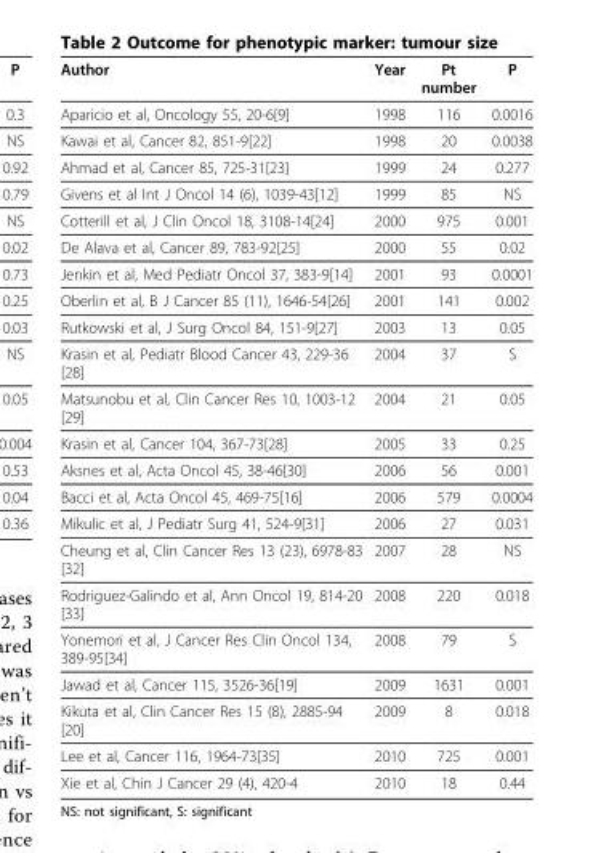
<table><thead><tr><td>Author</td><td>Year</td><td>Pt number</td><td>P</td></tr></thead><tbody><tr><td>Aparicio et al, Oncology 55, 20-6[9]</td><td>1998</td><td>116</td><td>0.0016</td></tr><tr><td>Kawai et al, Cancer 82, 851-9[22]</td><td>1998</td><td>20</td><td>0.0038</td></tr><tr><td>Ahmad et al, Cancer 85, 725-31[23]</td><td>1999</td><td>24</td><td>0.277</td></tr><tr><td>Givens et al Int J Oncol 14 (6), 1039-43[12]</td><td>1999</td><td>85</td><td>NS</td></tr><tr><td>Cotterill et al, J Clin Oncol 18, 3108-14[24]</td><td>2000</td><td>975</td><td>0.001</td></tr><tr><td>De Alava et al, Cancer 89, 783-92[25]</td><td>2000</td><td>55</td><td>0.02</td></tr><tr><td>Jenkin et al, Med Pediatr Oncol 37, 383-9[14]</td><td>2001</td><td>93</td><td>0.0001</td></tr><tr><td>Oberlin et al, B J Cancer 85 (11), 1646-54[26]</td><td>2001</td><td>141</td><td>0.002</td></tr><tr><td>Rutkowski et al, J Surg Oncol 84, 151-9[27]</td><td>2003</td><td>13</td><td>0.05</td></tr><tr><td>Krasin et al, Pediatr Blood Cancer 43, 229-36 [28]</td><td>2004</td><td>37</td><td>S</td></tr><tr><td>Matsunobu et al, Clin Cancer Res 10, 1003-12 [29]</td><td>2004</td><td>21</td><td>0.05</td></tr><tr><td>Krasin et al, Cancer 104, 367-73[28]</td><td>2005</td><td>33</td><td>0.25</td></tr><tr><td>Aksnes et al, Acta Oncol 45, 38-46[30]</td><td>2006</td><td>56</td><td>0.001</td></tr><tr><td>Bacci et al, Acta Oncol 45, 469-75[16]</td><td>2006</td><td>579</td><td>0.0004</td></tr><tr><td>Mikulic et al, J Pediatr Surg 41, 524-9[31]</td><td>2006</td><td>27</td><td>0.031</td></tr><tr><td>Cheung et al, Clin Cancer Res 13 (23), 6978-83 [32]</td><td>2007</td><td>28</td><td>NS</td></tr><tr><td>Rodriguez-Galindo et al, Ann Oncol 19, 814-20 [33]</td><td>2008</td><td>220</td><td>0.018</td></tr><tr><td>Yonemori et al, J Cancer Res Clin Oncol 134, 389-95[34]</td><td>2008</td><td>79</td><td>S</td></tr><tr><td>Jawad et al, Cancer 115, 3526-36[19]</td><td>2009</td><td>1631</td><td>0.001</td></tr><tr><td>Kikuta et al, Clin Cancer Res 15 (8), 2885-94 [20]</td><td>2009</td><td>8</td><td>0.018</td></tr><tr><td>Lee et al, Cancer 116, 1964-73[35]</td><td>2010</td><td>725</td><td>0.001</td></tr><tr><td>Xie et al, Chin J Cancer 29 (4), 420-4</td><td>2010</td><td>18</td><td>0.44</td></tr></tbody></table>